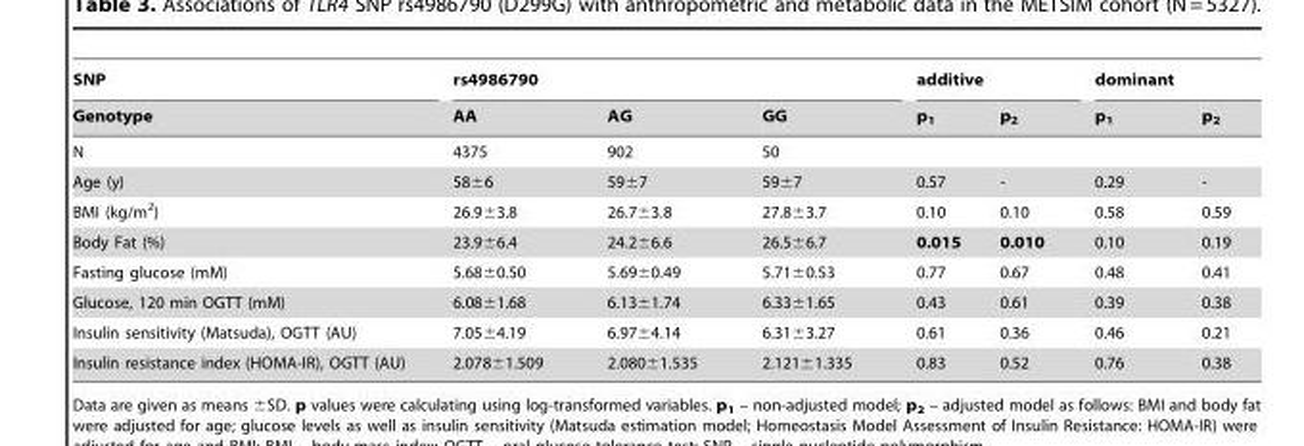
<table><thead><tr><td rowspan="2">SNP Genotype</td><td colspan="3">rs4986790</td><td colspan="2">additive</td><td colspan="2">dominant</td></tr><tr><td>AA</td><td>AG</td><td>GG</td><td>p<sub>1</sub></td><td>p<sub>2</sub></td><td>p<sub>1</sub></td><td>p<sub>2</sub></td></tr></thead><tbody><tr><td>N</td><td>4375</td><td>902</td><td>50</td><td></td><td></td><td></td><td></td></tr><tr><td>Age (y)</td><td>58±6</td><td>59±7</td><td>59±7</td><td>0.57</td><td>-</td><td>0.29</td><td>-</td></tr><tr><td>BMI (kg/m<sup>2</sup>)</td><td>26.9±3.8</td><td>26.7±3.8</td><td>27.8±3.7</td><td>0.10</td><td>0.10</td><td>0.58</td><td>0.59</td></tr><tr><td>Body Fat (%)</td><td>23.9±6.4</td><td>24.2±6.6</td><td>26.5±6.7</td><td>0.015</td><td>0.010</td><td>0.10</td><td>0.19</td></tr><tr><td>Fasting glucose (mM)</td><td>5.68±0.50</td><td>5.69±0.49</td><td>5.71±0.53</td><td>0.77</td><td>0.67</td><td>0.48</td><td>0.41</td></tr><tr><td>Glucose, 120 min OGTT (mM)</td><td>6.08±1.68</td><td>6.13±1.74</td><td>6.33±1.65</td><td>0.43</td><td>0.61</td><td>0.39</td><td>0.38</td></tr><tr><td>Insulin sensitivity (Matsuda), OGTT (AU)</td><td>7.05±4.19</td><td>6.97±4.14</td><td>6.31±3.27</td><td>0.61</td><td>0.36</td><td>0.46</td><td>0.21</td></tr><tr><td>Insulin resistance index (HOMA-IR), OGTT (AU)</td><td>2.078±1.509</td><td>2.080±1.535</td><td>2.121±1.335</td><td>0.83</td><td>0.52</td><td>0.76</td><td>0.38</td></tr></tbody></table>